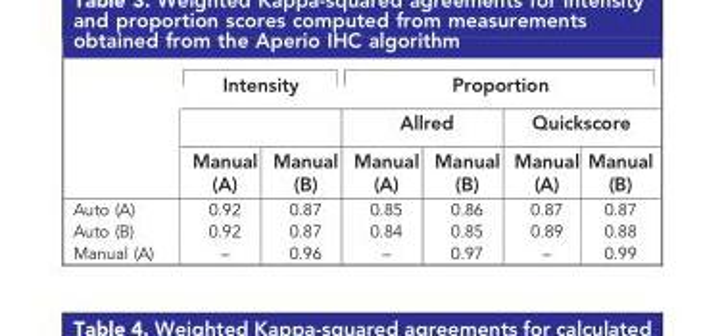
<table><thead><tr><td rowspan="3"></td><td colspan="2">Intensity</td><td colspan="4">Proportion</td></tr><tr><td rowspan="2">Manual (A)</td><td rowspan="2">Manual (B)</td><td colspan="2">Allred</td><td colspan="2">Quickscore</td></tr><tr><td>Manual (A)</td><td>Manual (B)</td><td>Manual (A)</td><td>Manual (B)</td></tr></thead><tbody><tr><td>Auto (A)</td><td>0.92</td><td>0.87</td><td>0.85</td><td>0.86</td><td>0.87</td><td>0.87</td></tr><tr><td>Auto (B)</td><td>0.92</td><td>0.87</td><td>0.84</td><td>0.85</td><td>0.89</td><td>0.88</td></tr><tr><td>Manual (A)</td><td>–</td><td>0.96</td><td>–</td><td>0.97</td><td>–</td><td>0.99</td></tr></tbody></table>